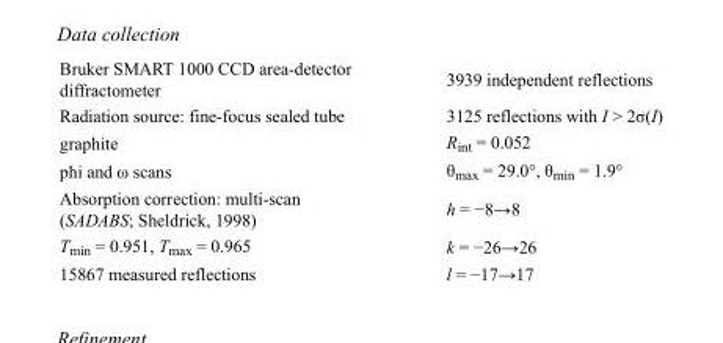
<table><tbody><tr><td>Bruker SMART 1000 CCD area-detector diffractometer</td><td>3939 independent reflections</td></tr><tr><td>Radiation source: fine-focus sealed tube</td><td>3125 reflections with I &gt; 2σ(I)</td></tr><tr><td>graphite</td><td>R<sub>int</sub> = 0.052</td></tr><tr><td>phi and ω scans</td><td>θ<sub>max</sub> = 29.0°, θ<sub>min</sub> = 1.9°</td></tr><tr><td>Absorption correction: multi-scan (SADABS; Sheldrick, 1998)</td><td>h = −8→8</td></tr><tr><td>T<sub>min</sub> = 0.951, T<sub>max</sub> = 0.965</td><td>k = −26→26</td></tr><tr><td>15867 measured reflections</td><td>l = −17→17</td></tr></tbody></table>